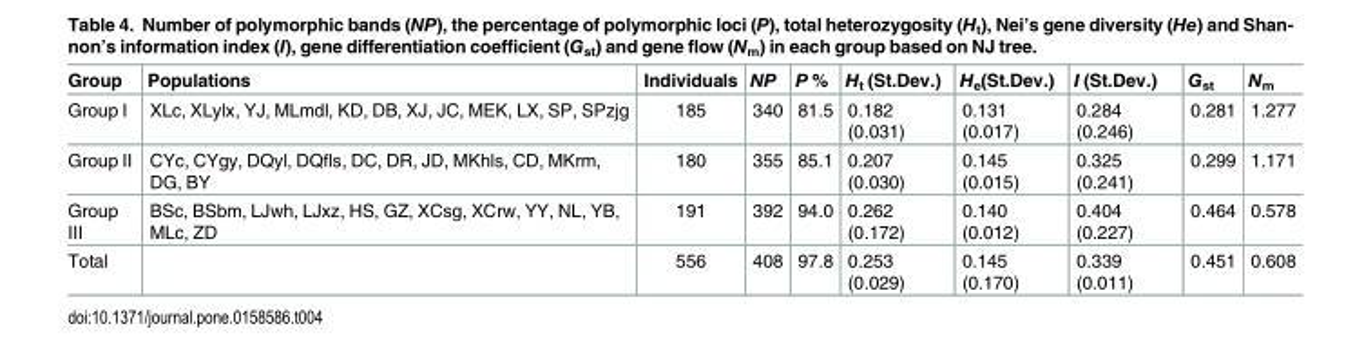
<table><thead><tr><td>Group</td><td>Populations</td><td>Individuals</td><td>NP</td><td>P %</td><td>H<sub>t</sub> (St.Dev.)</td><td>H<sub>e</sub>(St.Dev.)</td><td>I (St.Dev.)</td><td>G<sub>st</sub></td><td>N<sub>m</sub></td></tr></thead><tbody><tr><td>Group I</td><td>XLc, XLylx, YJ, MLmdl, KD, DB, XJ, JC, MEK, LX, SP, SPzjg</td><td>185</td><td>340</td><td>81.5</td><td>0.182 (0.031)</td><td>0.131 (0.017)</td><td>0.284 (0.246)</td><td>0.281</td><td>1.277</td></tr><tr><td>Group II</td><td>CYc, CYgy, DQyl, DQfls, DC, DR, JD, MKhls, CD, MKrm, DG, BY</td><td>180</td><td>355</td><td>85.1</td><td>0.207 (0.030)</td><td>0.145 (0.015)</td><td>0.325 (0.241)</td><td>0.299</td><td>1.171</td></tr><tr><td>Group III</td><td>BSc, BSbm, LJwh, LJxz, HS, GZ, XCsg, XCrw, YY, NL, YB, MLc, ZD</td><td>191</td><td>392</td><td>94.0</td><td>0.262 (0.172)</td><td>0.140 (0.012)</td><td>0.404 (0.227)</td><td>0.464</td><td>0.578</td></tr><tr><td>Total</td><td></td><td>556</td><td>408</td><td>97.8</td><td>0.253 (0.029)</td><td>0.145 (0.170)</td><td>0.339 (0.011)</td><td>0.451</td><td>0.608</td></tr></tbody></table>